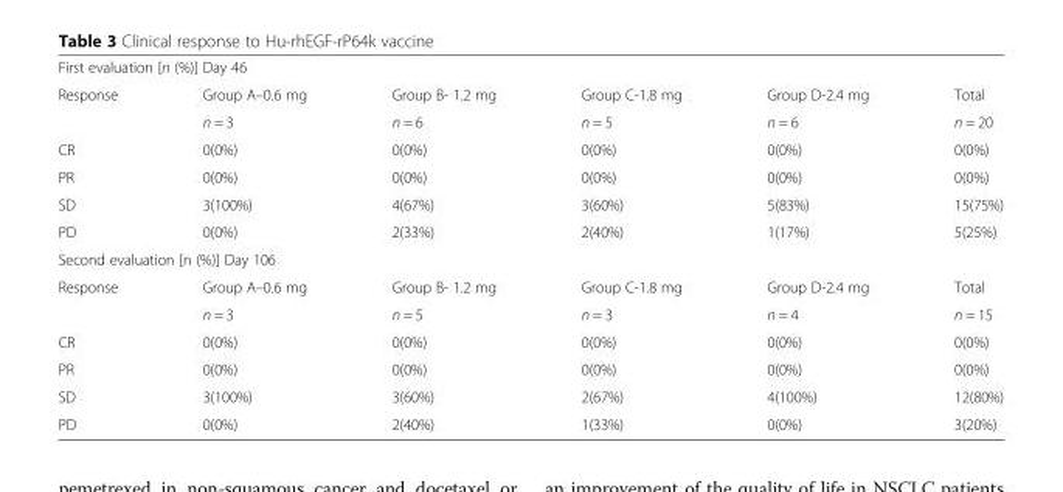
<table><tbody><tr><td colspan="6">First evaluation [n (%)] Day 46</td></tr><tr><td rowspan="2">Response</td><td>Group A–0.6 mg</td><td>Group B- 1.2 mg</td><td>Group C-1.8 mg</td><td>Group D-2.4 mg</td><td>Total</td></tr><tr><td>n = 3</td><td>n = 6</td><td>n = 5</td><td>n = 6</td><td>n = 20</td></tr><tr><td>CR</td><td>0(0%)</td><td>0(0%)</td><td>0(0%)</td><td>0(0%)</td><td>0(0%)</td></tr><tr><td>PR</td><td>0(0%)</td><td>0(0%)</td><td>0(0%)</td><td>0(0%)</td><td>0(0%)</td></tr><tr><td>SD</td><td>3(100%)</td><td>4(67%)</td><td>3(60%)</td><td>5(83%)</td><td>15(75%)</td></tr><tr><td>PD</td><td>0(0%)</td><td>2(33%)</td><td>2(40%)</td><td>1(17%)</td><td>5(25%)</td></tr><tr><td colspan="6">Second evaluation [n (%)] Day 106</td></tr><tr><td rowspan="2">Response</td><td>Group A–0.6 mg</td><td>Group B- 1.2 mg</td><td>Group C-1.8 mg</td><td>Group D-2.4 mg</td><td>Total</td></tr><tr><td>n = 3</td><td>n = 5</td><td>n = 3</td><td>n = 4</td><td>n = 15</td></tr><tr><td>CR</td><td>0(0%)</td><td>0(0%)</td><td>0(0%)</td><td>0(0%)</td><td>0(0%)</td></tr><tr><td>PR</td><td>0(0%)</td><td>0(0%)</td><td>0(0%)</td><td>0(0%)</td><td>0(0%)</td></tr><tr><td>SD</td><td>3(100%)</td><td>3(60%)</td><td>2(67%)</td><td>4(100%)</td><td>12(80%)</td></tr><tr><td>PD</td><td>0(0%)</td><td>2(40%)</td><td>1(33%)</td><td>0(0%)</td><td>3(20%)</td></tr></tbody></table>